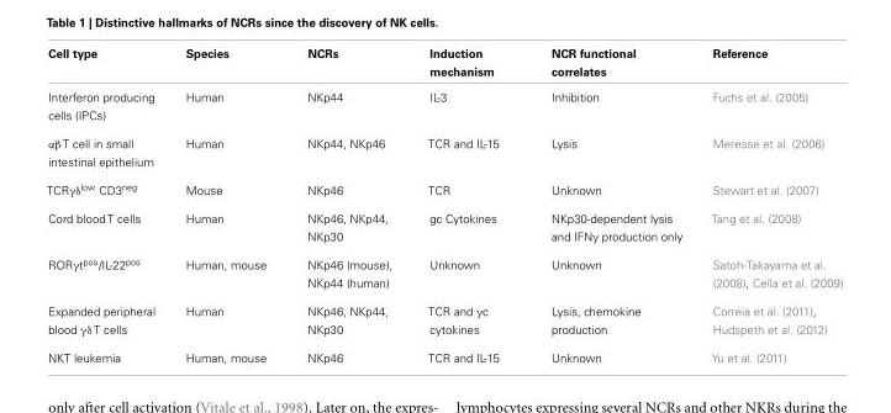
<table><thead><tr><td>Cell type</td><td>Species</td><td>NCRs</td><td>Induction mechanism</td><td>NCR functional correlates</td><td>Reference</td></tr></thead><tbody><tr><td>Interferon producing cells (IPCs)</td><td>Human</td><td>NKp44</td><td>IL-3</td><td>Inhibition</td><td>Fuchs et al. (2005)</td></tr><tr><td>αβ T cell in small intestinal epithelium</td><td>Human</td><td>NKp44, NKp46</td><td>TCR and IL-15</td><td>Lysis</td><td>Meresse et al. (2006)</td></tr><tr><td>TCRγδ<sup>low</sup> CD3<sup>neg</sup></td><td>Mouse</td><td>NKp46</td><td>TCR</td><td>Unknown</td><td>Stewart et al. (2007)</td></tr><tr><td>Cord blood T cells</td><td>Human</td><td>NKp46, NKp44, NKp30</td><td>gc Cytokines</td><td>NKp30-dependent lysis and IFNγ production only</td><td>Tang et al. (2008)</td></tr><tr><td>RORγt<sup>pos</sup>/IL-22<sup>pos</sup></td><td>Human, mouse</td><td>NKp46 (mouse), NKp44 (human)</td><td>Unknown</td><td>Unknown</td><td>Satoh-Takayama et al. (2008), Cella et al. (2009)</td></tr><tr><td>Expanded peripheral blood γδ T cells</td><td>Human</td><td>NKp46, NKp44, NKp30</td><td>TCR and γc cytokines</td><td>Lysis, chemokine production</td><td>Correia et al. (2011), Hudspeth et al. (2012)</td></tr><tr><td>NKT leukemia</td><td>Human, mouse</td><td>NKp46</td><td>TCR and IL-15</td><td>Unknown</td><td>Yu et al. (2011)</td></tr></tbody></table>